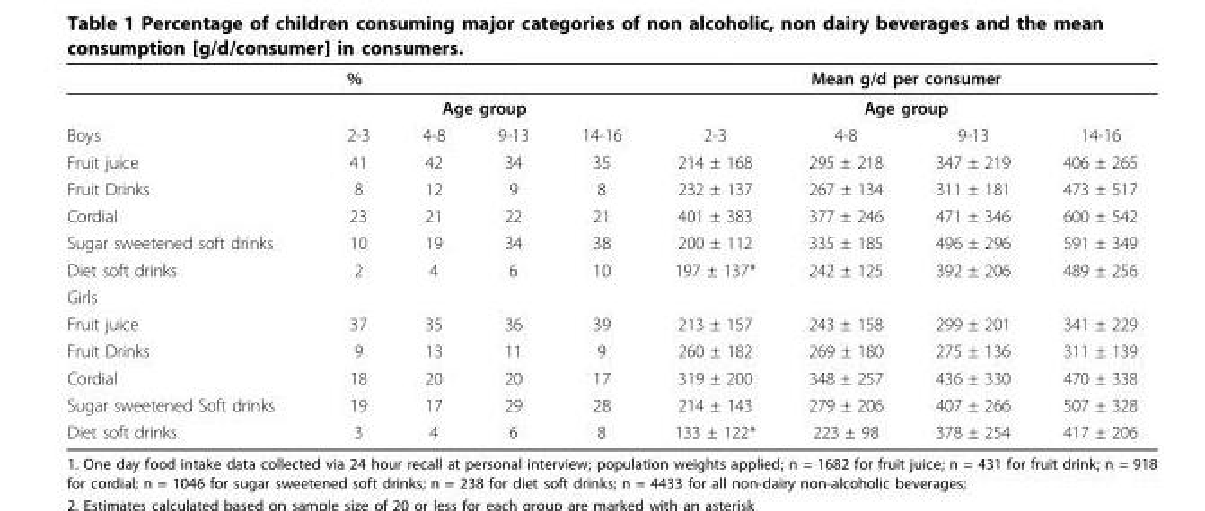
<table><thead><tr><td colspan="5">%</td><td rowspan="2" colspan="4">Mean g/d per consumer Age group</td></tr><tr><td rowspan="2">Boys</td><td colspan="4">Age group</td></tr><tr><td>2-3</td><td>4-8</td><td>9-13</td><td>14-16</td><td>2-3</td><td>4-8</td><td>9-13</td><td>14-16</td></tr></thead><tbody><tr><td>Fruit juice</td><td>41</td><td>42</td><td>34</td><td>35</td><td>214 ± 168</td><td>295 ± 218</td><td>347 ± 219</td><td>406 ± 265</td></tr><tr><td>Fruit Drinks</td><td>8</td><td>12</td><td>9</td><td>8</td><td>232 ± 137</td><td>267 ± 134</td><td>311 ± 181</td><td>473 ± 517</td></tr><tr><td>Cordial</td><td>23</td><td>21</td><td>22</td><td>21</td><td>401 ± 383</td><td>377 ± 246</td><td>471 ± 346</td><td>600 ± 542</td></tr><tr><td>Sugar sweetened soft drinks</td><td>10</td><td>19</td><td>34</td><td>38</td><td>200 ± 112</td><td>335 ± 185</td><td>496 ± 296</td><td>591 ± 349</td></tr><tr><td>Diet soft drinks</td><td>2</td><td>4</td><td>6</td><td>10</td><td>197 ± 137*</td><td>242 ± 125</td><td>392 ± 206</td><td>489 ± 256</td></tr><tr><td colspan="9">Girls</td></tr><tr><td>Fruit juice</td><td>37</td><td>35</td><td>36</td><td>39</td><td>213 ± 157</td><td>243 ± 158</td><td>299 ± 201</td><td>341 ± 229</td></tr><tr><td>Fruit Drinks</td><td>9</td><td>13</td><td>11</td><td>9</td><td>260 ± 182</td><td>269 ± 180</td><td>275 ± 136</td><td>311 ± 139</td></tr><tr><td>Cordial</td><td>18</td><td>20</td><td>20</td><td>17</td><td>319 ± 200</td><td>348 ± 257</td><td>436 ± 330</td><td>470 ± 338</td></tr><tr><td>Sugar sweetened Soft drinks</td><td>19</td><td>17</td><td>29</td><td>28</td><td>214 ± 143</td><td>279 ± 206</td><td>407 ± 266</td><td>507 ± 328</td></tr><tr><td>Diet soft drinks</td><td>3</td><td>4</td><td>6</td><td>8</td><td>133 ± 122*</td><td>223 ± 98</td><td>378 ± 254</td><td>417 ± 206</td></tr></tbody></table>